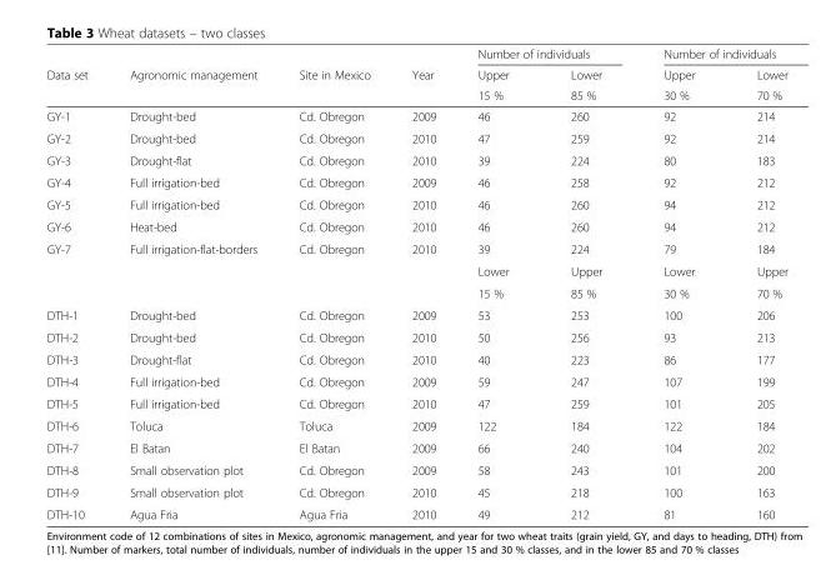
<table><thead><tr><td rowspan="3">Data set</td><td rowspan="3">Agronomic management</td><td rowspan="3">Site in Mexico</td><td rowspan="3">Year</td><td colspan="2">Number of individuals</td><td colspan="2">Number of individuals</td></tr><tr><td rowspan="2">Upper 15 %</td><td rowspan="2">Lower 85 %</td><td rowspan="2">Upper 30 %</td><td rowspan="2">Lower 70 %</td></tr><tr></tr></thead><tbody><tr><td>GY-1</td><td>Drought-bed</td><td>Cd. Obregon</td><td>2009</td><td>46</td><td>260</td><td>92</td><td>214</td></tr><tr><td>GY-2</td><td>Drought-bed</td><td>Cd. Obregon</td><td>2010</td><td>47</td><td>259</td><td>92</td><td>214</td></tr><tr><td>GY-3</td><td>Drought-flat</td><td>Cd. Obregon</td><td>2010</td><td>39</td><td>224</td><td>80</td><td>183</td></tr><tr><td>GY-4</td><td>Full irrigation-bed</td><td>Cd. Obregon</td><td>2009</td><td>46</td><td>258</td><td>92</td><td>212</td></tr><tr><td>GY-5</td><td>Full irrigation-bed</td><td>Cd. Obregon</td><td>2010</td><td>46</td><td>260</td><td>94</td><td>212</td></tr><tr><td>GY-6</td><td>Heat-bed</td><td>Cd. Obregon</td><td>2010</td><td>46</td><td>260</td><td>94</td><td>212</td></tr><tr><td rowspan="3">GY-7</td><td>Full irrigation-flat-borders</td><td>Cd. Obregon</td><td>2010</td><td>39</td><td>224</td><td>79</td><td>184</td></tr><tr><td></td><td></td><td></td><td>Lower</td><td>Upper</td><td>Lower</td><td>Upper</td></tr><tr><td></td><td></td><td></td><td>15 %</td><td>85 %</td><td>30 %</td><td>70 %</td></tr><tr><td>DTH-1</td><td>Drought-bed</td><td>Cd. Obregon</td><td>2009</td><td>53</td><td>253</td><td>100</td><td>206</td></tr><tr><td>DTH-2</td><td>Drought-bed</td><td>Cd. Obregon</td><td>2010</td><td>50</td><td>256</td><td>93</td><td>213</td></tr><tr><td>DTH-3</td><td>Drought-flat</td><td>Cd. Obregon</td><td>2010</td><td>40</td><td>223</td><td>86</td><td>177</td></tr><tr><td>DTH-4</td><td>Full irrigation-bed</td><td>Cd. Obregon</td><td>2009</td><td>59</td><td>247</td><td>107</td><td>199</td></tr><tr><td>DTH-5</td><td>Full irrigation-bed</td><td>Cd. Obregon</td><td>2010</td><td>47</td><td>259</td><td>101</td><td>205</td></tr><tr><td>DTH-6</td><td>Toluca</td><td>Toluca</td><td>2009</td><td>122</td><td>184</td><td>122</td><td>184</td></tr><tr><td>DTH-7</td><td>El Batan</td><td>El Batan</td><td>2009</td><td>66</td><td>240</td><td>104</td><td>202</td></tr><tr><td>DTH-8</td><td>Small observation plot</td><td>Cd. Obregon</td><td>2009</td><td>58</td><td>243</td><td>101</td><td>200</td></tr><tr><td>DTH-9</td><td>Small observation plot</td><td>Cd. Obregon</td><td>2010</td><td>45</td><td>218</td><td>100</td><td>163</td></tr><tr><td>DTH-10</td><td>Agua Fria</td><td>Agua Fria</td><td>2010</td><td>49</td><td>212</td><td>81</td><td>160</td></tr></tbody></table>